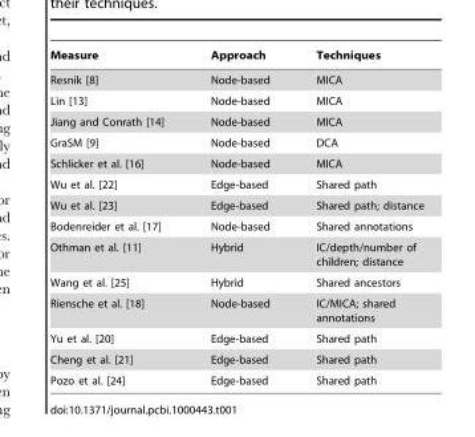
<table><thead><tr><td>Measure</td><td>Approach</td><td>Techniques</td></tr></thead><tbody><tr><td>Resnik [8]</td><td>Node-based</td><td>MICA</td></tr><tr><td>Lin [13]</td><td>Node-based</td><td>MICA</td></tr><tr><td>Jiang and Conrath [14]</td><td>Node-based</td><td>MICA</td></tr><tr><td>GraSM [9]</td><td>Node-based</td><td>DCA</td></tr><tr><td>Schlicker et al. [16]</td><td>Node-based</td><td>MICA</td></tr><tr><td>Wu et al. [22]</td><td>Edge-based</td><td>Shared path</td></tr><tr><td>Wu et al. [23]</td><td>Edge-based</td><td>Shared path; distance</td></tr><tr><td>Bodenreider et al. [17]</td><td>Node-based</td><td>Shared annotations</td></tr><tr><td>Othman et al. [11]</td><td>Hybrid</td><td>IC/depth/number of children; distance</td></tr><tr><td>Wang et al. [25]</td><td>Hybrid</td><td>Shared ancestors</td></tr><tr><td>Riensche et al. [18]</td><td>Node-based</td><td>IC/MICA; shared annotations</td></tr><tr><td>Yu et al. [20]</td><td>Edge-based</td><td>Shared path</td></tr><tr><td>Cheng et al. [21]</td><td>Edge-based</td><td>Shared path</td></tr><tr><td>Pozo et al. [24]</td><td>Edge-based</td><td>Shared path</td></tr></tbody></table>